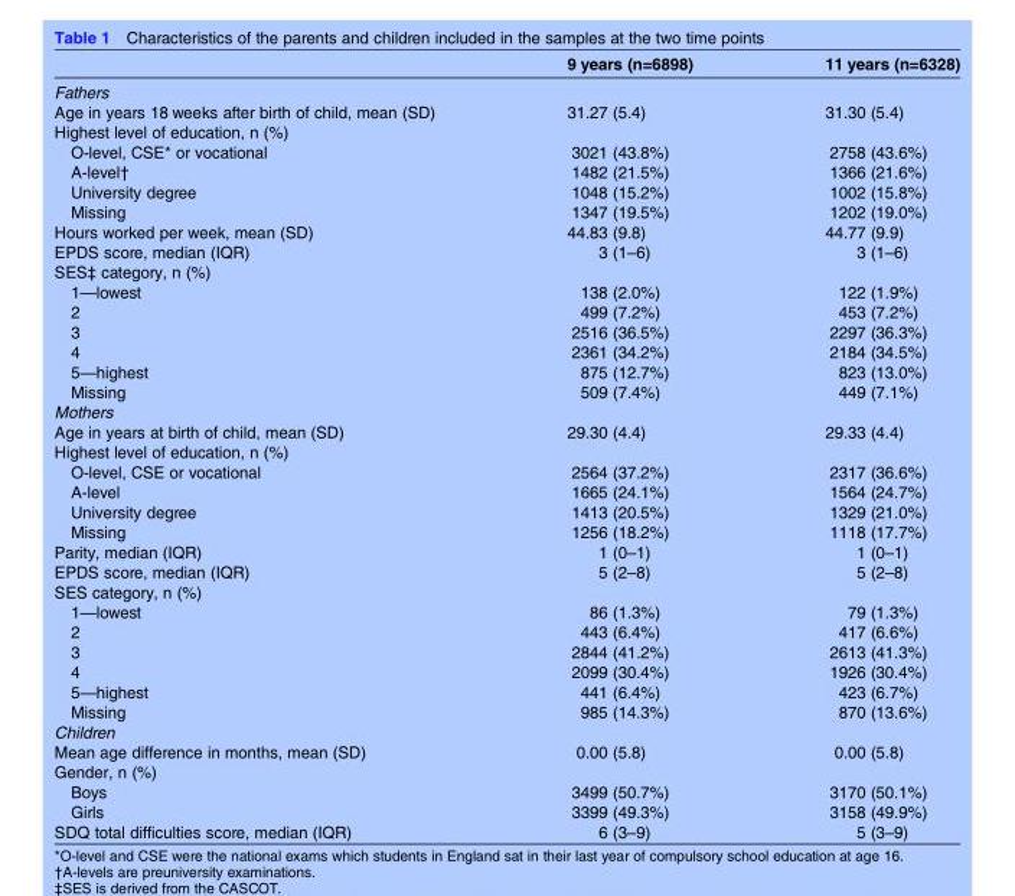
<table><thead><tr><td></td><td>9 years (n=6898)</td><td>11 years (n=6328)</td></tr></thead><tbody><tr><td colspan="3">Fathers</td></tr><tr><td>Age in years 18 weeks after birth of child, mean (SD)</td><td>31.27 (5.4)</td><td>31.30 (5.4)</td></tr><tr><td colspan="3">Highest level of education, n (%)</td></tr><tr><td>O-level, CSE* or vocational</td><td>3021 (43.8%)</td><td>2758 (43.6%)</td></tr><tr><td>A-level†</td><td>1482 (21.5%)</td><td>1366 (21.6%)</td></tr><tr><td>University degree</td><td>1048 (15.2%)</td><td>1002 (15.8%)</td></tr><tr><td>Missing</td><td>1347 (19.5%)</td><td>1202 (19.0%)</td></tr><tr><td>Hours worked per week, mean (SD)</td><td>44.83 (9.8)</td><td>44.77 (9.9)</td></tr><tr><td>EPDS score, median (IQR)</td><td>3 (1–6)</td><td>3 (1–6)</td></tr><tr><td colspan="3">SES‡ category, n (%)</td></tr><tr><td>1—lowest</td><td>138 (2.0%)</td><td>122 (1.9%)</td></tr><tr><td>2</td><td>499 (7.2%)</td><td>453 (7.2%)</td></tr><tr><td>3</td><td>2516 (36.5%)</td><td>2297 (36.3%)</td></tr><tr><td>4</td><td>2361 (34.2%)</td><td>2184 (34.5%)</td></tr><tr><td>5—highest</td><td>875 (12.7%)</td><td>823 (13.0%)</td></tr><tr><td>Missing</td><td>509 (7.4%)</td><td>449 (7.1%)</td></tr><tr><td colspan="3">Mothers</td></tr><tr><td>Age in years at birth of child, mean (SD)</td><td>29.30 (4.4)</td><td>29.33 (4.4)</td></tr><tr><td colspan="3">Highest level of education, n (%)</td></tr><tr><td>O-level, CSE or vocational</td><td>2564 (37.2%)</td><td>2317 (36.6%)</td></tr><tr><td>A-level</td><td>1665 (24.1%)</td><td>1564 (24.7%)</td></tr><tr><td>University degree</td><td>1413 (20.5%)</td><td>1329 (21.0%)</td></tr><tr><td>Missing</td><td>1256 (18.2%)</td><td>1118 (17.7%)</td></tr><tr><td>Parity, median (IQR)</td><td>1 (0–1)</td><td>1 (0–1)</td></tr><tr><td>EPDS score, median (IQR)</td><td>5 (2–8)</td><td>5 (2–8)</td></tr><tr><td colspan="3">SES category, n (%)</td></tr><tr><td>1—lowest</td><td>86 (1.3%)</td><td>79 (1.3%)</td></tr><tr><td>2</td><td>443 (6.4%)</td><td>417 (6.6%)</td></tr><tr><td>3</td><td>2844 (41.2%)</td><td>2613 (41.3%)</td></tr><tr><td>4</td><td>2099 (30.4%)</td><td>1926 (30.4%)</td></tr><tr><td>5—highest</td><td>441 (6.4%)</td><td>423 (6.7%)</td></tr><tr><td>Missing</td><td>985 (14.3%)</td><td>870 (13.6%)</td></tr><tr><td colspan="3">Children</td></tr><tr><td>Mean age difference in months, mean (SD)</td><td>0.00 (5.8)</td><td>0.00 (5.8)</td></tr><tr><td colspan="3">Gender, n (%)</td></tr><tr><td>Boys</td><td>3499 (50.7%)</td><td>3170 (50.1%)</td></tr><tr><td>Girls</td><td>3399 (49.3%)</td><td>3158 (49.9%)</td></tr><tr><td>SDQ total difficulties score, median (IQR)</td><td>6 (3–9)</td><td>5 (3–9)</td></tr></tbody></table>